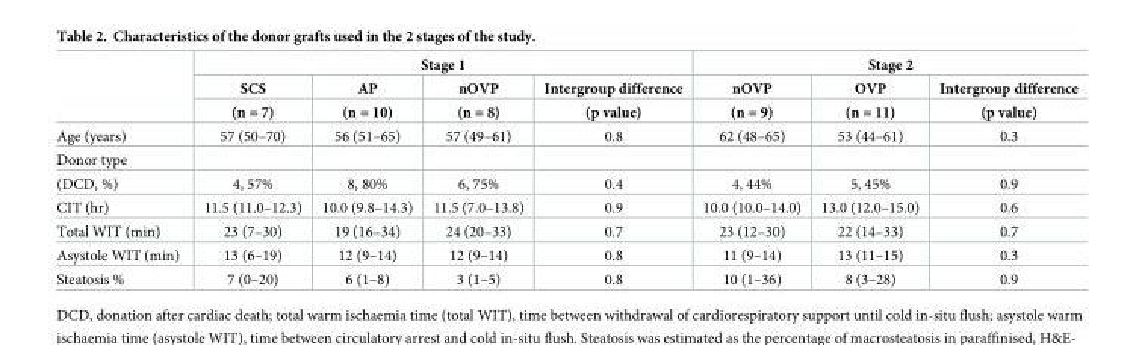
<table><thead><tr><td rowspan="3"></td><td colspan="4">Stage 1</td><td colspan="3">Stage 2</td></tr><tr><td rowspan="2">SCS (n = 7)</td><td rowspan="2">AP (n = 10)</td><td rowspan="2">nOVP (n = 8)</td><td rowspan="2">Intergroup difference (p value)</td><td rowspan="2">nOVP (n = 9)</td><td rowspan="2">OVP (n = 11)</td><td rowspan="2">Intergroup difference (p value)</td></tr><tr></tr></thead><tbody><tr><td>Age (years)</td><td>57 (50–70)</td><td>56 (51–65)</td><td>57 (49–61)</td><td>0.8</td><td>62 (48–65)</td><td>53 (44–61)</td><td>0.3</td></tr><tr><td colspan="8">Donor type</td></tr><tr><td>(DCD, %)</td><td>4, 57%</td><td>8, 80%</td><td>6, 75%</td><td>0.4</td><td>4, 44%</td><td>5, 45%</td><td>0.9</td></tr><tr><td>CIT (hr)</td><td>11.5 (11.0–12.3)</td><td>10.0 (9.8–14.3)</td><td>11.5 (7.0–13.8)</td><td>0.9</td><td>10.0 (10.0–14.0)</td><td>13.0 (12.0–15.0)</td><td>0.6</td></tr><tr><td>Total WIT (min)</td><td>23 (7–30)</td><td>19 (16–34)</td><td>24 (20–33)</td><td>0.7</td><td>23 (12–30)</td><td>22 (14–33)</td><td>0.7</td></tr><tr><td>Asystole WIT (min)</td><td>13 (6–19)</td><td>12 (9–14)</td><td>12 (9–14)</td><td>0.8</td><td>11 (9–14)</td><td>13 (11–15)</td><td>0.3</td></tr><tr><td>Steatosis %</td><td>7 (0–20)</td><td>6 (1–8)</td><td>3 (1–5)</td><td>0.8</td><td>10 (1–36)</td><td>8 (3–28)</td><td>0.9</td></tr></tbody></table>